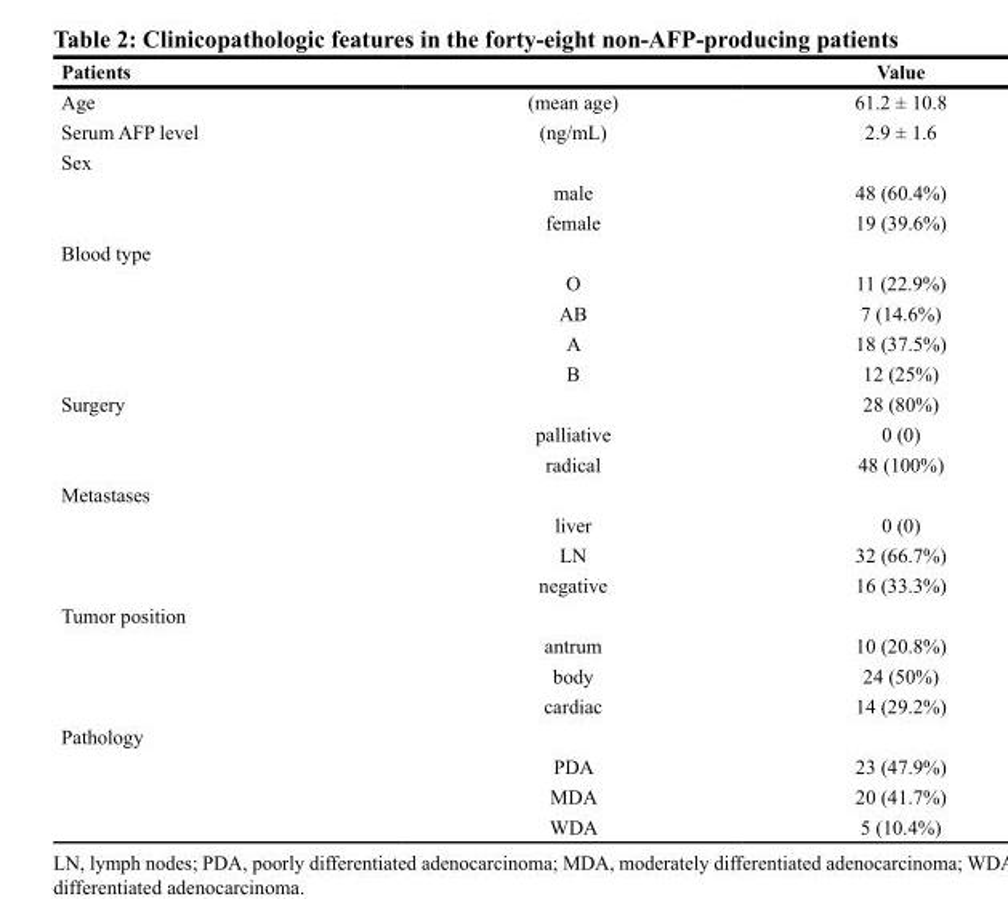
<table><thead><tr><td>Patients</td><td></td><td>Value</td></tr></thead><tbody><tr><td>Age</td><td>(mean age)</td><td>61.2 ± 10.8</td></tr><tr><td>Serum AFP level</td><td>(ng/mL)</td><td>2.9 ± 1.6</td></tr><tr><td colspan="3">Sex</td></tr><tr><td></td><td>male</td><td>48 (60.4%)</td></tr><tr><td></td><td>female</td><td>19 (39.6%)</td></tr><tr><td colspan="3">Blood type</td></tr><tr><td></td><td>O</td><td>11 (22.9%)</td></tr><tr><td></td><td>AB</td><td>7 (14.6%)</td></tr><tr><td></td><td>A</td><td>18 (37.5%)</td></tr><tr><td></td><td>B</td><td>12 (25%)</td></tr><tr><td rowspan="3">Surgery</td><td></td><td>28 (80%)</td></tr><tr><td>palliative</td><td>0 (0)</td></tr><tr><td>radical</td><td>48 (100%)</td></tr><tr><td colspan="3">Metastases</td></tr><tr><td></td><td>liver</td><td>0 (0)</td></tr><tr><td></td><td>LN</td><td>32 (66.7%)</td></tr><tr><td></td><td>negative</td><td>16 (33.3%)</td></tr><tr><td colspan="3">Tumor position</td></tr><tr><td></td><td>antrum</td><td>10 (20.8%)</td></tr><tr><td></td><td>body</td><td>24 (50%)</td></tr><tr><td></td><td>cardiac</td><td>14 (29.2%)</td></tr><tr><td colspan="3">Pathology</td></tr><tr><td></td><td>PDA</td><td>23 (47.9%)</td></tr><tr><td></td><td>MDA</td><td>20 (41.7%)</td></tr><tr><td></td><td>WDA</td><td>5 (10.4%)</td></tr></tbody></table>